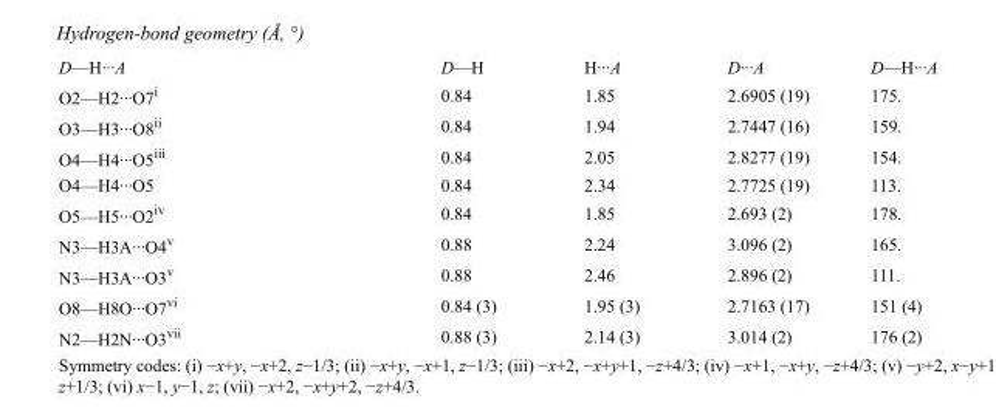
<table><tbody><tr><td>D—H···A</td><td>D—H</td><td>H···A</td><td>D···A</td><td>D—H···A</td></tr><tr><td>O2—H2···O7<sup>i</sup></td><td>0.84</td><td>1.85</td><td>2.6905 (19)</td><td>175.</td></tr><tr><td>O3—H3···O8<sup>ii</sup></td><td>0.84</td><td>1.94</td><td>2.7447 (16)</td><td>159.</td></tr><tr><td>O4—H4···O5<sup>iii</sup></td><td>0.84</td><td>2.05</td><td>2.8277 (19)</td><td>154.</td></tr><tr><td>O4—H4···O5</td><td>0.84</td><td>2.34</td><td>2.7725 (19)</td><td>113.</td></tr><tr><td>O5—H5···O2<sup>iv</sup></td><td>0.84</td><td>1.85</td><td>2.693 (2)</td><td>178.</td></tr><tr><td>N3—H3A···O4<sup>v</sup></td><td>0.88</td><td>2.24</td><td>3.096 (2)</td><td>165.</td></tr><tr><td>N3—H3A···O3<sup>v</sup></td><td>0.88</td><td>2.46</td><td>2.896 (2)</td><td>111.</td></tr><tr><td>O8—H8O···O7<sup>vi</sup></td><td>0.84 (3)</td><td>1.95 (3)</td><td>2.7163 (17)</td><td>151 (4)</td></tr><tr><td>N2—H2N···O3<sup>vii</sup></td><td>0.88 (3)</td><td>2.14 (3)</td><td>3.014 (2)</td><td>176 (2)</td></tr></tbody></table>